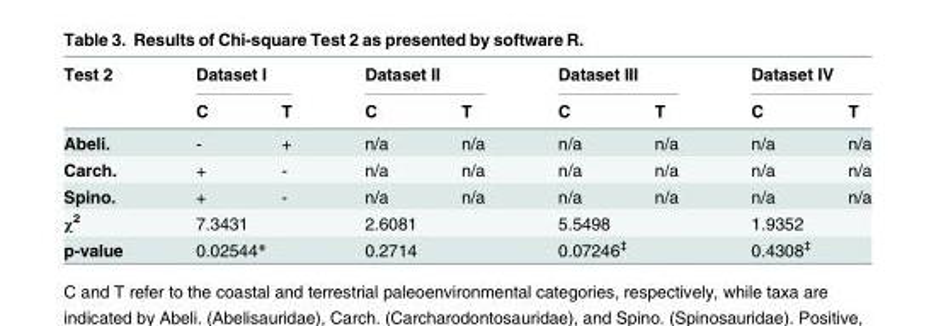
<table><thead><tr><td rowspan="2">Test 2</td><td colspan="2">Dataset I</td><td colspan="2">Dataset II</td><td colspan="2">Dataset III</td><td colspan="2">Dataset IV</td></tr><tr><td>C</td><td>T</td><td>C</td><td>T</td><td>C</td><td>T</td><td>C</td><td>T</td></tr></thead><tbody><tr><td>Abeli.</td><td>-</td><td>+</td><td>n/a</td><td>n/a</td><td>n/a</td><td>n/a</td><td>n/a</td><td>n/a</td></tr><tr><td>Carch.</td><td>+</td><td>-</td><td>n/a</td><td>n/a</td><td>n/a</td><td>n/a</td><td>n/a</td><td>n/a</td></tr><tr><td>Spino.</td><td>+</td><td>-</td><td>n/a</td><td>n/a</td><td>n/a</td><td>n/a</td><td>n/a</td><td>n/a</td></tr><tr><td>χ<sup>2</sup></td><td colspan="2">7.3431</td><td colspan="2">2.6081</td><td colspan="2">5.5498</td><td colspan="2">1.9352</td></tr><tr><td>p-value</td><td colspan="2">0.02544*</td><td colspan="2">0.2714</td><td colspan="2">0.07246<sup>‡</sup></td><td colspan="2">0.4308<sup>‡</sup></td></tr></tbody></table>